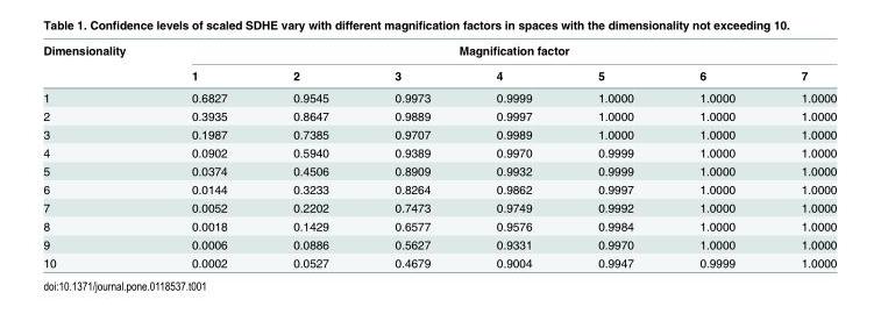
<table><thead><tr><td rowspan="2">Dimensionality</td><td colspan="7">Magnification factor</td></tr><tr><td>1</td><td>2</td><td>3</td><td>4</td><td>5</td><td>6</td><td>7</td></tr></thead><tbody><tr><td>1</td><td>0.6827</td><td>0.9545</td><td>0.9973</td><td>0.9999</td><td>1.0000</td><td>1.0000</td><td>1.0000</td></tr><tr><td>2</td><td>0.3935</td><td>0.8647</td><td>0.9889</td><td>0.9997</td><td>1.0000</td><td>1.0000</td><td>1.0000</td></tr><tr><td>3</td><td>0.1987</td><td>0.7385</td><td>0.9707</td><td>0.9989</td><td>1.0000</td><td>1.0000</td><td>1.0000</td></tr><tr><td>4</td><td>0.0902</td><td>0.5940</td><td>0.9389</td><td>0.9970</td><td>0.9999</td><td>1.0000</td><td>1.0000</td></tr><tr><td>5</td><td>0.0374</td><td>0.4506</td><td>0.8909</td><td>0.9932</td><td>0.9999</td><td>1.0000</td><td>1.0000</td></tr><tr><td>6</td><td>0.0144</td><td>0.3233</td><td>0.8264</td><td>0.9862</td><td>0.9997</td><td>1.0000</td><td>1.0000</td></tr><tr><td>7</td><td>0.0052</td><td>0.2202</td><td>0.7473</td><td>0.9749</td><td>0.9992</td><td>1.0000</td><td>1.0000</td></tr><tr><td>8</td><td>0.0018</td><td>0.1429</td><td>0.6577</td><td>0.9576</td><td>0.9984</td><td>1.0000</td><td>1.0000</td></tr><tr><td>9</td><td>0.0006</td><td>0.0886</td><td>0.5627</td><td>0.9331</td><td>0.9970</td><td>1.0000</td><td>1.0000</td></tr><tr><td>10</td><td>0.0002</td><td>0.0527</td><td>0.4679</td><td>0.9004</td><td>0.9947</td><td>0.9999</td><td>1.0000</td></tr></tbody></table>